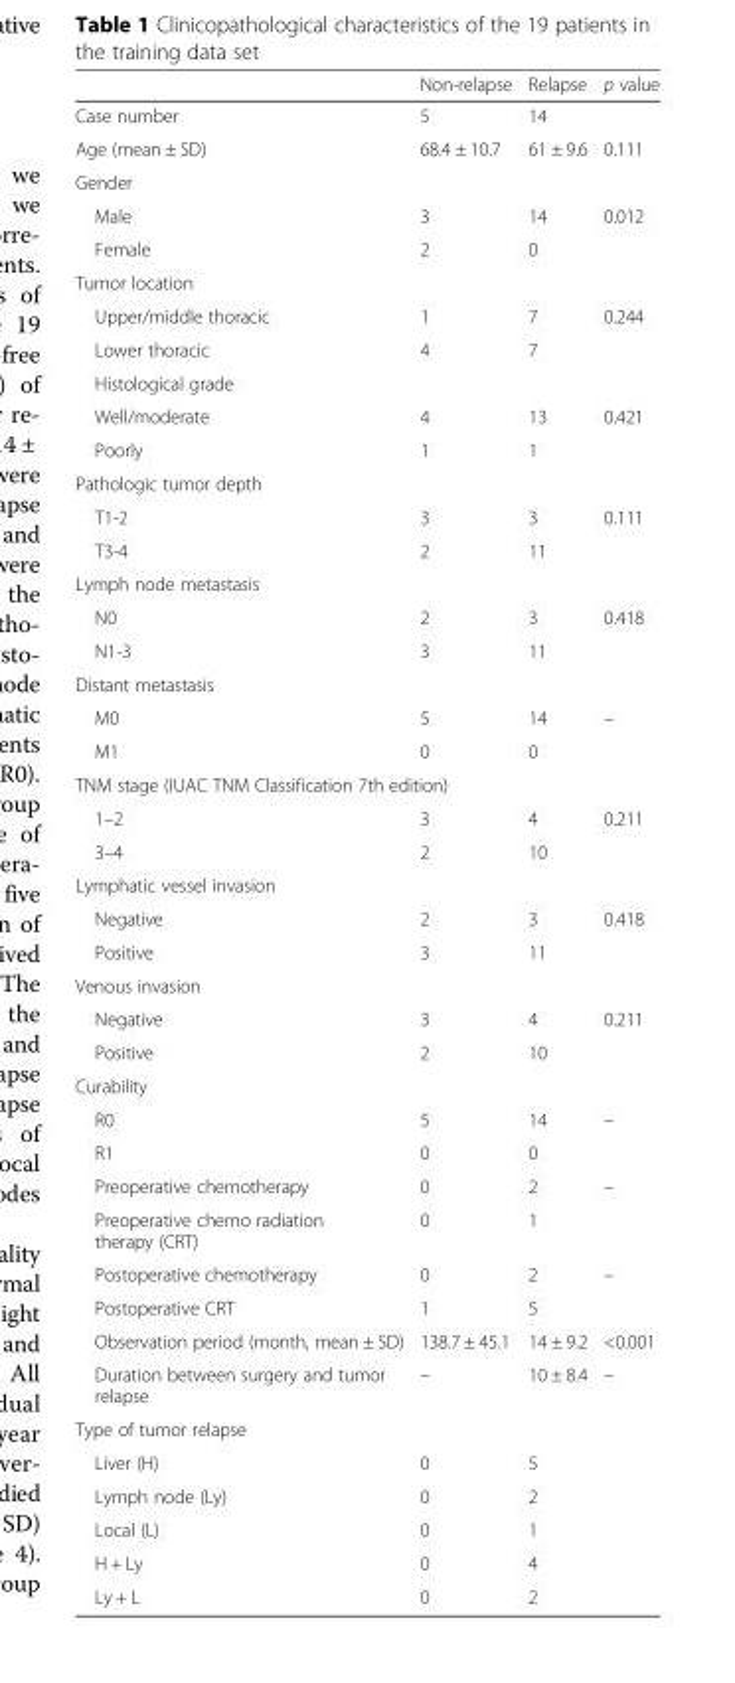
<table><thead><tr><td></td><td>Non-relapse</td><td>Relapse</td><td>p value</td></tr></thead><tbody><tr><td>Case number</td><td>5</td><td>14</td><td></td></tr><tr><td>Age (mean ± SD)</td><td>68.4 ± 10.7</td><td>61 ± 9.6</td><td>0.111</td></tr><tr><td colspan="4">Gender</td></tr><tr><td>Male</td><td>3</td><td>14</td><td>0.012</td></tr><tr><td>Female</td><td>2</td><td>0</td><td></td></tr><tr><td colspan="4">Tumor location</td></tr><tr><td>Upper/middle thoracic</td><td>1</td><td>7</td><td>0.244</td></tr><tr><td>Lower thoracic</td><td>4</td><td>7</td><td></td></tr><tr><td colspan="4">Histological grade</td></tr><tr><td>Well/moderate</td><td>4</td><td>13</td><td>0.421</td></tr><tr><td>Poorly</td><td>1</td><td>1</td><td></td></tr><tr><td colspan="4">Pathologic tumor depth</td></tr><tr><td>T1-2</td><td>3</td><td>3</td><td>0.111</td></tr><tr><td>T3-4</td><td>2</td><td>11</td><td></td></tr><tr><td colspan="4">Lymph node metastasis</td></tr><tr><td>N0</td><td>2</td><td>3</td><td>0.418</td></tr><tr><td>N1-3</td><td>3</td><td>11</td><td></td></tr><tr><td colspan="4">Distant metastasis</td></tr><tr><td>M0</td><td>5</td><td>14</td><td>–</td></tr><tr><td>M1</td><td>0</td><td>0</td><td></td></tr><tr><td colspan="4">TNM stage (IUAC TNM Classification 7th edition)</td></tr><tr><td>1–2</td><td>3</td><td>4</td><td>0.211</td></tr><tr><td>3–4</td><td>2</td><td>10</td><td></td></tr><tr><td colspan="4">Lymphatic vessel invasion</td></tr><tr><td>Negative</td><td>2</td><td>3</td><td>0.418</td></tr><tr><td>Positive</td><td>3</td><td>11</td><td></td></tr><tr><td colspan="4">Venous invasion</td></tr><tr><td>Negative</td><td>3</td><td>4</td><td>0.211</td></tr><tr><td>Positive</td><td>2</td><td>10</td><td></td></tr><tr><td colspan="4">Curability</td></tr><tr><td>R0</td><td>5</td><td>14</td><td>–</td></tr><tr><td>R1</td><td>0</td><td>0</td><td></td></tr><tr><td>Preoperative chemotherapy</td><td>0</td><td>2</td><td>–</td></tr><tr><td>Preoperative chemo radiation therapy (CRT)</td><td>0</td><td>1</td><td></td></tr><tr><td>Postoperative chemotherapy</td><td>0</td><td>2</td><td>–</td></tr><tr><td>Postoperative CRT</td><td>1</td><td>5</td><td></td></tr><tr><td>Observation period (month, mean ± SD)</td><td>138.7 ± 45.1</td><td>14 ± 9.2</td><td>&lt;0.001</td></tr><tr><td>Duration between surgery and tumor relapse</td><td>–</td><td>10 ± 8.4</td><td>–</td></tr><tr><td colspan="4">Type of tumor relapse</td></tr><tr><td>Liver (H)</td><td>0</td><td>5</td><td></td></tr><tr><td>Lymph node (Ly)</td><td>0</td><td>2</td><td></td></tr><tr><td>Local (L)</td><td>0</td><td>1</td><td></td></tr><tr><td>H + Ly</td><td>0</td><td>4</td><td></td></tr><tr><td>Ly + L</td><td>0</td><td>2</td><td></td></tr></tbody></table>